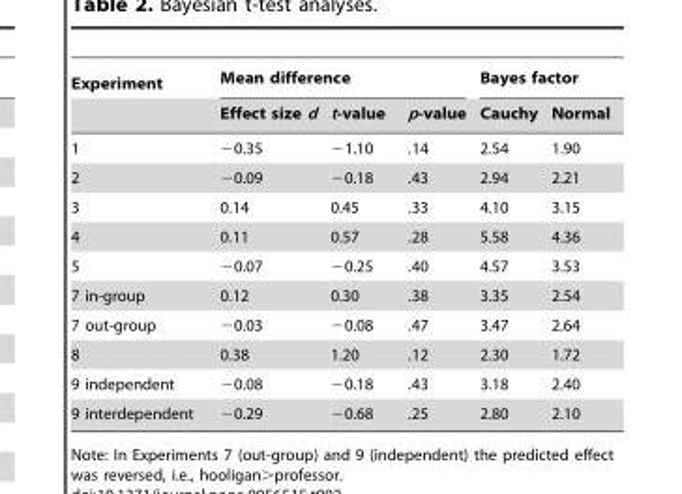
<table><thead><tr><td rowspan="2">Experiment</td><td colspan="3">Mean difference</td><td colspan="2">Bayes factor</td></tr><tr><td>Effect size d</td><td>t-value</td><td>p-value</td><td>Cauchy</td><td>Normal</td></tr></thead><tbody><tr><td>1</td><td>−0.35</td><td>−1.10</td><td>.14</td><td>2.54</td><td>1.90</td></tr><tr><td>2</td><td>−0.09</td><td>−0.18</td><td>.43</td><td>2.94</td><td>2.21</td></tr><tr><td>3</td><td>0.14</td><td>0.45</td><td>.33</td><td>4.10</td><td>3.15</td></tr><tr><td>4</td><td>0.11</td><td>0.57</td><td>.28</td><td>5.58</td><td>4.36</td></tr><tr><td>5</td><td>−0.07</td><td>−0.25</td><td>.40</td><td>4.57</td><td>3.53</td></tr><tr><td>7 in-group</td><td>0.12</td><td>0.30</td><td>.38</td><td>3.35</td><td>2.54</td></tr><tr><td>7 out-group</td><td>−0.03</td><td>−0.08</td><td>.47</td><td>3.47</td><td>2.64</td></tr><tr><td>8</td><td>0.38</td><td>1.20</td><td>.12</td><td>2.30</td><td>1.72</td></tr><tr><td>9 independent</td><td>−0.08</td><td>−0.18</td><td>.43</td><td>3.18</td><td>2.40</td></tr><tr><td>9 interdependent</td><td>−0.29</td><td>−0.68</td><td>.25</td><td>2.80</td><td>2.10</td></tr></tbody></table>